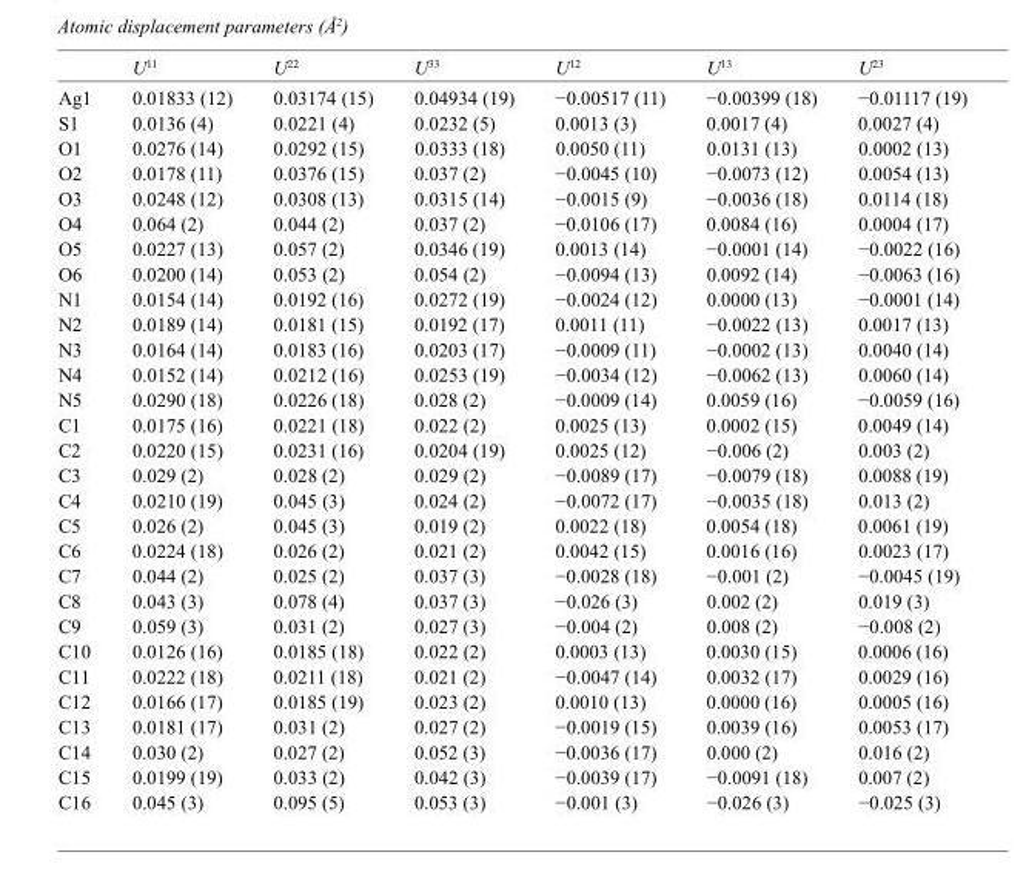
<table><thead><tr><td></td><td>U<sup>11</sup></td><td>U<sup>22</sup></td><td>U<sup>33</sup></td><td>U<sup>12</sup></td><td>U<sup>13</sup></td><td>U<sup>23</sup></td></tr></thead><tbody><tr><td>Ag1</td><td>0.01833 (12)</td><td>0.03174 (15)</td><td>0.04934 (19)</td><td>−0.00517 (11)</td><td>−0.00399 (18)</td><td>−0.01117 (19)</td></tr><tr><td>S1</td><td>0.0136 (4)</td><td>0.0221 (4)</td><td>0.0232 (5)</td><td>0.0013 (3)</td><td>0.0017 (4)</td><td>0.0027 (4)</td></tr><tr><td>O1</td><td>0.0276 (14)</td><td>0.0292 (15)</td><td>0.0333 (18)</td><td>0.0050 (11)</td><td>0.0131 (13)</td><td>0.0002 (13)</td></tr><tr><td>O2</td><td>0.0178 (11)</td><td>0.0376 (15)</td><td>0.037 (2)</td><td>−0.0045 (10)</td><td>−0.0073 (12)</td><td>0.0054 (13)</td></tr><tr><td>O3</td><td>0.0248 (12)</td><td>0.0308 (13)</td><td>0.0315 (14)</td><td>−0.0015 (9)</td><td>−0.0036 (18)</td><td>0.0114 (18)</td></tr><tr><td>O4</td><td>0.064 (2)</td><td>0.044 (2)</td><td>0.037 (2)</td><td>−0.0106 (17)</td><td>0.0084 (16)</td><td>0.0004 (17)</td></tr><tr><td>O5</td><td>0.0227 (13)</td><td>0.057 (2)</td><td>0.0346 (19)</td><td>0.0013 (14)</td><td>−0.0001 (14)</td><td>−0.0022 (16)</td></tr><tr><td>O6</td><td>0.0200 (14)</td><td>0.053 (2)</td><td>0.054 (2)</td><td>−0.0094 (13)</td><td>0.0092 (14)</td><td>−0.0063 (16)</td></tr><tr><td>N1</td><td>0.0154 (14)</td><td>0.0192 (16)</td><td>0.0272 (19)</td><td>−0.0024 (12)</td><td>0.0000 (13)</td><td>−0.0001 (14)</td></tr><tr><td>N2</td><td>0.0189 (14)</td><td>0.0181 (15)</td><td>0.0192 (17)</td><td>0.0011 (11)</td><td>−0.0022 (13)</td><td>0.0017 (13)</td></tr><tr><td>N3</td><td>0.0164 (14)</td><td>0.0183 (16)</td><td>0.0203 (17)</td><td>−0.0009 (11)</td><td>−0.0002 (13)</td><td>0.0040 (14)</td></tr><tr><td>N4</td><td>0.0152 (14)</td><td>0.0212 (16)</td><td>0.0253 (19)</td><td>−0.0034 (12)</td><td>−0.0062 (13)</td><td>0.0060 (14)</td></tr><tr><td>N5</td><td>0.0290 (18)</td><td>0.0226 (18)</td><td>0.028 (2)</td><td>−0.0009 (14)</td><td>0.0059 (16)</td><td>−0.0059 (16)</td></tr><tr><td>C1</td><td>0.0175 (16)</td><td>0.0221 (18)</td><td>0.022 (2)</td><td>0.0025 (13)</td><td>0.0002 (15)</td><td>0.0049 (14)</td></tr><tr><td>C2</td><td>0.0220 (15)</td><td>0.0231 (16)</td><td>0.0204 (19)</td><td>0.0025 (12)</td><td>−0.006 (2)</td><td>0.003 (2)</td></tr><tr><td>C3</td><td>0.029 (2)</td><td>0.028 (2)</td><td>0.029 (2)</td><td>−0.0089 (17)</td><td>−0.0079 (18)</td><td>0.0088 (19)</td></tr><tr><td>C4</td><td>0.0210 (19)</td><td>0.045 (3)</td><td>0.024 (2)</td><td>−0.0072 (17)</td><td>−0.0035 (18)</td><td>0.013 (2)</td></tr><tr><td>C5</td><td>0.026 (2)</td><td>0.045 (3)</td><td>0.019 (2)</td><td>0.0022 (18)</td><td>0.0054 (18)</td><td>0.0061 (19)</td></tr><tr><td>C6</td><td>0.0224 (18)</td><td>0.026 (2)</td><td>0.021 (2)</td><td>0.0042 (15)</td><td>0.0016 (16)</td><td>0.0023 (17)</td></tr><tr><td>C7</td><td>0.044 (2)</td><td>0.025 (2)</td><td>0.037 (3)</td><td>−0.0028 (18)</td><td>−0.001 (2)</td><td>−0.0045 (19)</td></tr><tr><td>C8</td><td>0.043 (3)</td><td>0.078 (4)</td><td>0.037 (3)</td><td>−0.026 (3)</td><td>0.002 (2)</td><td>0.019 (3)</td></tr><tr><td>C9</td><td>0.059 (3)</td><td>0.031 (2)</td><td>0.027 (3)</td><td>−0.004 (2)</td><td>0.008 (2)</td><td>−0.008 (2)</td></tr><tr><td>C10</td><td>0.0126 (16)</td><td>0.0185 (18)</td><td>0.022 (2)</td><td>0.0003 (13)</td><td>0.0030 (15)</td><td>0.0006 (16)</td></tr><tr><td>C11</td><td>0.0222 (18)</td><td>0.0211 (18)</td><td>0.021 (2)</td><td>−0.0047 (14)</td><td>0.0032 (17)</td><td>0.0029 (16)</td></tr><tr><td>C12</td><td>0.0166 (17)</td><td>0.0185 (19)</td><td>0.023 (2)</td><td>0.0010 (13)</td><td>0.0000 (16)</td><td>0.0005 (16)</td></tr><tr><td>C13</td><td>0.0181 (17)</td><td>0.031 (2)</td><td>0.027 (2)</td><td>−0.0019 (15)</td><td>0.0039 (16)</td><td>0.0053 (17)</td></tr><tr><td>C14</td><td>0.030 (2)</td><td>0.027 (2)</td><td>0.052 (3)</td><td>−0.0036 (17)</td><td>0.000 (2)</td><td>0.016 (2)</td></tr><tr><td>C15</td><td>0.0199 (19)</td><td>0.033 (2)</td><td>0.042 (3)</td><td>−0.0039 (17)</td><td>−0.0091 (18)</td><td>0.007 (2)</td></tr><tr><td>C16</td><td>0.045 (3)</td><td>0.095 (5)</td><td>0.053 (3)</td><td>−0.001 (3)</td><td>−0.026 (3)</td><td>−0.025 (3)</td></tr></tbody></table>